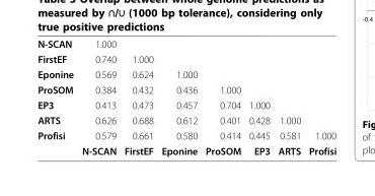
<table><tbody><tr><td>N-SCAN</td><td>1.000</td><td></td><td></td><td></td><td></td><td></td><td></td></tr><tr><td>FirstEF</td><td>0.740</td><td>1.000</td><td></td><td></td><td></td><td></td><td></td></tr><tr><td>Eponine</td><td>0.569</td><td>0.624</td><td>1.000</td><td></td><td></td><td></td><td></td></tr><tr><td>ProSOM</td><td>0.384</td><td>0.432</td><td>0.436</td><td>1.000</td><td></td><td></td><td></td></tr><tr><td>EP3</td><td>0.413</td><td>0.473</td><td>0.457</td><td>0.704</td><td>1.000</td><td></td><td></td></tr><tr><td>ARTS</td><td>0.626</td><td>0.688</td><td>0.612</td><td>0.401</td><td>0.428</td><td>1.000</td><td></td></tr><tr><td rowspan="2">Profisi</td><td>0.579</td><td>0.661</td><td>0.580</td><td>0.414</td><td>0.445</td><td>0.581</td><td>1.000</td></tr><tr><td>N-SCAN</td><td>FirstEF</td><td>Eponine</td><td>ProSOM</td><td>EP3</td><td>ARTS</td><td>Profisi</td></tr></tbody></table>